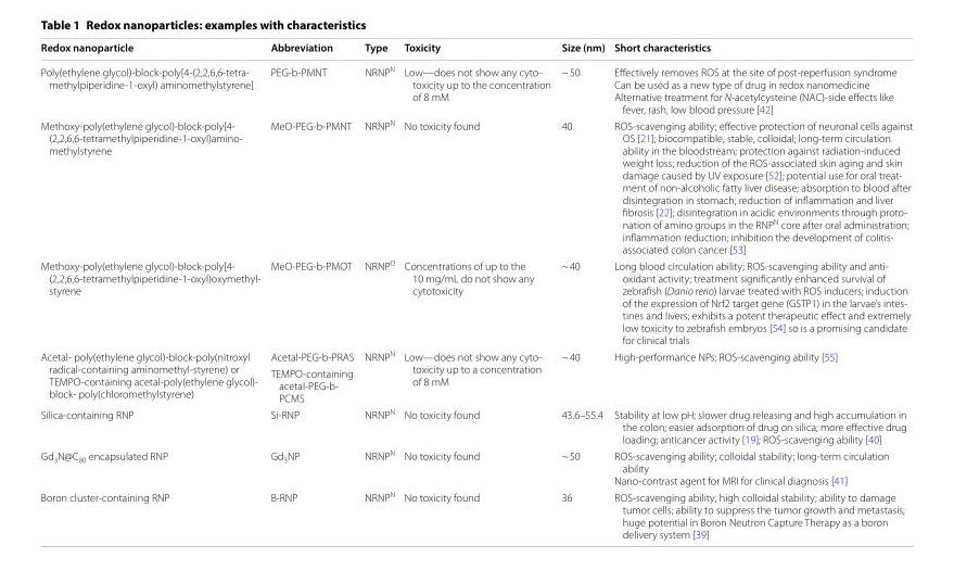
<table><thead><tr><td>Redox nanoparticle</td><td>Abbreviation</td><td>Type</td><td>Toxicity</td><td>Size (nm)</td><td>Short characteristics</td></tr></thead><tbody><tr><td>Poly(ethylene glycol)‑block‑poly[4‑(2,2,6,6‑tetra‑ methylpiperidine‑1‑oxyl) aminomethylstyrene]</td><td>PEG‑b‑PMNT</td><td>NRNP<sup>N</sup></td><td>Low—does not show any cyto‑ toxicity up to the concentration of 8 mM</td><td>~ 50</td><td>Effectively removes ROS at the site of post‑reperfusion syndrome Can be used as a new type of drug in redox nanomedicine Alternative treatment for N‑acetylcysteine (NAC)‑side effects like fever, rash, low blood pressure [42]</td></tr><tr><td>Methoxy‑poly(ethylene glycol)‑block‑poly[4‑ (2,2,6,6‑tetramethylpiperidine‑1‑oxyl)amino‑ methylstyrene</td><td>MeO‑PEG‑b‑PMNT</td><td>NRNP<sup>N</sup></td><td>No toxicity found</td><td>40</td><td>ROS‑scavenging ability; effective protection of neuronal cells against OS [21]; biocompatible, stable, colloidal; long‑term circulation ability in the bloodstream; protection against radiation‑induced weight loss; reduction of the ROS‑associated skin aging and skin damage caused by UV exposure [52]; potential use for oral treat‑ ment of non‑alcoholic fatty liver disease; absorption to blood after disintegration in stomach; reduction of inflammation and liver fibrosis [22]; disintegration in acidic environments through proto‑ nation of amino groups in the RNPN core after oral administration; inflammation reduction; inhibition the development of colitis‑ associated colon cancer [53]</td></tr><tr><td>Methoxy‑poly(ethylene glycol)‑block‑poly[4‑ (2,2,6,6‑tetramethylpiperidine‑1‑oxyl)oxymethyl‑ styrene</td><td>MeO‑PEG‑b‑PMOT</td><td>NRNP<sup>O</sup></td><td>Concentrations of up to the 10 mg/mL do not show any cytotoxicity</td><td>~ 40</td><td>Long blood circulation ability; ROS‑scavenging ability and anti‑ oxidant activity; treatment significantly enhanced survival of zebrafish (Danio rerio) larvae treated with ROS inducers; induction of the expression of Nrf2 target gene (GSTP1) in the larvae’s intes‑ tines and livers; exhibits a potent therapeutic effect and extremely low toxicity to zebrafish embryos [54] so is a promising candidate for clinical trials</td></tr><tr><td rowspan="2">Acetal‑ poly(ethylene glycol)‑block‑poly(nitroxyl radical‑containing aminomethyl‑styrene) or TEMPO‑containing acetal‑poly(ethylene glycol)‑ block‑ poly(chloromethylstyrene)</td><td>Acetal‑PEG‑b‑PRAS</td><td rowspan="2">NRNP<sup>N</sup></td><td rowspan="2">Low—does not show any cyto‑ toxicity up to a concentration of 8 mM</td><td rowspan="2">~ 40</td><td rowspan="2">High‑performance NPs; ROS‑scavenging ability [55]</td></tr><tr><td>TEMPO‑containing acetal‑PEG‑b‑ PCMS</td></tr><tr><td>Silica‑containing RNP</td><td>Si‑RNP</td><td>NRNP<sup>N</sup></td><td>No toxicity found</td><td>43.6–55.4</td><td>Stability at low pH; slower drug releasing and high accumulation in the colon; easier adsorption of drug on silica; more effective drug loading; anticancer activity [19]; ROS‑scavenging ability [40]</td></tr><tr><td>Gd<sub>3</sub>N@C<sub>80</sub> encapsulated RNP</td><td>Gd<sub>3</sub>NP</td><td>NRNP<sup>N</sup></td><td>No toxicity found</td><td>~ 50</td><td>ROS‑scavenging ability; colloidal stability; long‑term circulation ability Nano‑contrast agent for MRI for clinical diagnosis [41]</td></tr><tr><td>Boron cluster‑containing RNP</td><td>B‑RNP</td><td>NRNP<sup>N</sup></td><td>No toxicity found</td><td>36</td><td>ROS‑scavenging ability; high colloidal stability; ability to damage tumor cells; ability to suppress the tumor growth and metastasis; huge potential in Boron Neutron Capture Therapy as a boron delivery system [39]</td></tr></tbody></table>